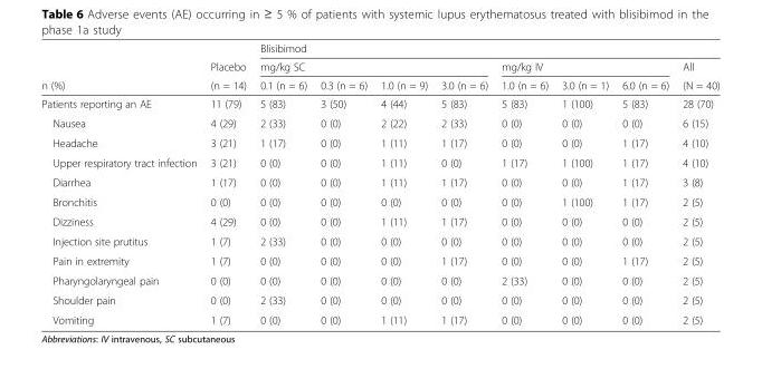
<table><thead><tr><td rowspan="3">n (%)</td><td rowspan="3">Placebo (n = 14)</td><td colspan="8">Blisibimod</td></tr><tr><td colspan="4">mg/kg SC</td><td colspan="3">mg/kg IV</td><td rowspan="2">All (N = 40)</td></tr><tr><td>0.1 (n = 6)</td><td>0.3 (n = 6)</td><td>1.0 (n = 9)</td><td>3.0 (n = 6)</td><td>1.0 (n = 6)</td><td>3.0 (n = 1)</td><td>6.0 (n = 6)</td></tr></thead><tbody><tr><td>Patients reporting an AE</td><td>11 (79)</td><td>5 (83)</td><td>3 (50)</td><td>4 (44)</td><td>5 (83)</td><td>5 (83)</td><td>1 (100)</td><td>5 (83)</td><td>28 (70)</td></tr><tr><td>Nausea</td><td>4 (29)</td><td>2 (33)</td><td>0 (0)</td><td>2 (22)</td><td>2 (33)</td><td>0 (0)</td><td>0 (0)</td><td>0 (0)</td><td>6 (15)</td></tr><tr><td>Headache</td><td>3 (21)</td><td>1 (17)</td><td>0 (0)</td><td>1 (11)</td><td>1 (17)</td><td>0 (0)</td><td>0 (0)</td><td>1 (17)</td><td>4 (10)</td></tr><tr><td>Upper respiratory tract infection</td><td>3 (21)</td><td>0 (0)</td><td>0 (0)</td><td>1 (11)</td><td>0 (0)</td><td>1 (17)</td><td>1 (100)</td><td>1 (17)</td><td>4 (10)</td></tr><tr><td>Diarrhea</td><td>1 (17)</td><td>0 (0)</td><td>0 (0)</td><td>1 (11)</td><td>1 (17)</td><td>0 (0)</td><td>0 (0)</td><td>1 (17)</td><td>3 (8)</td></tr><tr><td>Bronchitis</td><td>0 (0)</td><td>0 (0)</td><td>0 (0)</td><td>0 (0)</td><td>0 (0)</td><td>0 (0)</td><td>1 (100)</td><td>1 (17)</td><td>2 (5)</td></tr><tr><td>Dizziness</td><td>4 (29)</td><td>0 (0)</td><td>0 (0)</td><td>1 (11)</td><td>1 (17)</td><td>0 (0)</td><td>0 (0)</td><td>0 (0)</td><td>2 (5)</td></tr><tr><td>Injection site prutitus</td><td>1 (7)</td><td>2 (33)</td><td>0 (0)</td><td>0 (0)</td><td>0 (0)</td><td>0 (0)</td><td>0 (0)</td><td>0 (0)</td><td>2 (5)</td></tr><tr><td>Pain in extremity</td><td>1 (7)</td><td>0 (0)</td><td>0 (0)</td><td>0 (0)</td><td>1 (17)</td><td>0 (0)</td><td>0 (0)</td><td>1 (17)</td><td>2 (5)</td></tr><tr><td>Pharyngolaryngeal pain</td><td>0 (0)</td><td>0 (0)</td><td>0 (0)</td><td>0 (0)</td><td>0 (0)</td><td>2 (33)</td><td>0 (0)</td><td>0 (0)</td><td>2 (5)</td></tr><tr><td>Shoulder pain</td><td>0 (0)</td><td>2 (33)</td><td>0 (0)</td><td>0 (0)</td><td>0 (0)</td><td>0 (0)</td><td>0 (0)</td><td>0 (0)</td><td>2 (5)</td></tr><tr><td>Vomiting</td><td>1 (7)</td><td>0 (0)</td><td>0 (0)</td><td>1 (11)</td><td>1 (17)</td><td>0 (0)</td><td>0 (0)</td><td>0 (0)</td><td>2 (5)</td></tr></tbody></table>